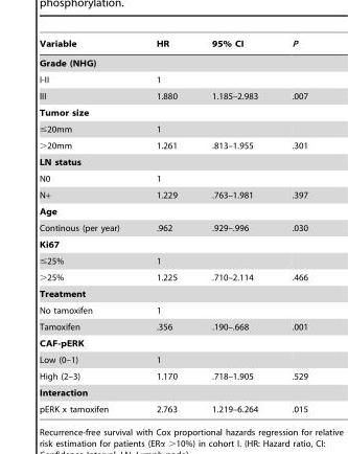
<table><thead><tr><td>Variable</td><td>HR</td><td>95% CI</td><td>P</td></tr></thead><tbody><tr><td colspan="4">Grade (NHG)</td></tr><tr><td>I-II</td><td>1</td><td></td><td></td></tr><tr><td>III</td><td>1.880</td><td>1.185–2.983</td><td>.007</td></tr><tr><td colspan="4">Tumor size</td></tr><tr><td>≤20mm</td><td>1</td><td></td><td></td></tr><tr><td>&gt;20mm</td><td>1.261</td><td>.813–1.955</td><td>.301</td></tr><tr><td colspan="4">LN status</td></tr><tr><td>N0</td><td>1</td><td></td><td></td></tr><tr><td>N+</td><td>1.229</td><td>.763–1.981</td><td>.397</td></tr><tr><td colspan="4">Age</td></tr><tr><td>Continous (per year)</td><td>.962</td><td>.929–.996</td><td>.030</td></tr><tr><td colspan="4">Ki67</td></tr><tr><td>≤25%</td><td>1</td><td></td><td></td></tr><tr><td>&gt;25%</td><td>1.225</td><td>.710–2.114</td><td>.466</td></tr><tr><td colspan="4">Treatment</td></tr><tr><td>No tamoxifen</td><td>1</td><td></td><td></td></tr><tr><td>Tamoxifen</td><td>.356</td><td>.190–.668</td><td>.001</td></tr><tr><td colspan="4">CAF-pERK</td></tr><tr><td>Low (0–1)</td><td>1</td><td></td><td></td></tr><tr><td>High (2–3)</td><td>1.170</td><td>.718–1.905</td><td>.529</td></tr><tr><td colspan="4">Interaction</td></tr><tr><td>pERK x tamoxifen</td><td>2.763</td><td>1.219–6.264</td><td>.015</td></tr></tbody></table>